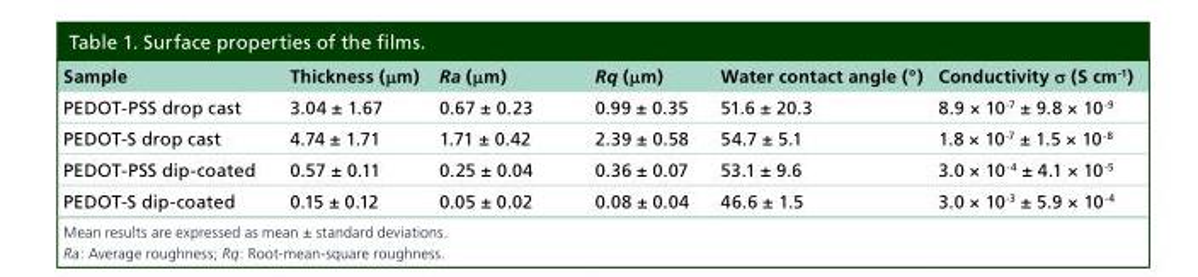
<table><thead><tr><td>Sample</td><td>Thickness (μm)</td><td>Ra (μm)</td><td>Rq (μm)</td><td>Water contact angle (°)</td><td>Conductivity σ (S cm<sup>-1</sup>)</td></tr></thead><tbody><tr><td>PEDOT-PSS drop cast</td><td>3.04 ± 1.67</td><td>0.67 ± 0.23</td><td>0.99 ± 0.35</td><td>51.6 ± 20.3</td><td>8.9 × 10<sup>-7</sup> ± 9.8 × 10<sup>-9</sup></td></tr><tr><td>PEDOT-S drop cast</td><td>4.74 ± 1.71</td><td>1.71 ± 0.42</td><td>2.39 ± 0.58</td><td>54.7 ± 5.1</td><td>1.8 × 10<sup>-7</sup> ± 1.5 × 10<sup>-8</sup></td></tr><tr><td>PEDOT-PSS dip-coated</td><td>0.57 ± 0.11</td><td>0.25 ± 0.04</td><td>0.36 ± 0.07</td><td>53.1 ± 9.6</td><td>3.0 × 10<sup>-4</sup> ± 4.1 × 10<sup>-5</sup></td></tr><tr><td>PEDOT-S dip-coated</td><td>0.15 ± 0.12</td><td>0.05 ± 0.02</td><td>0.08 ± 0.04</td><td>46.6 ± 1.5</td><td>3.0 × 10<sup>-3</sup> ± 5.9 × 10<sup>-4</sup></td></tr></tbody></table>